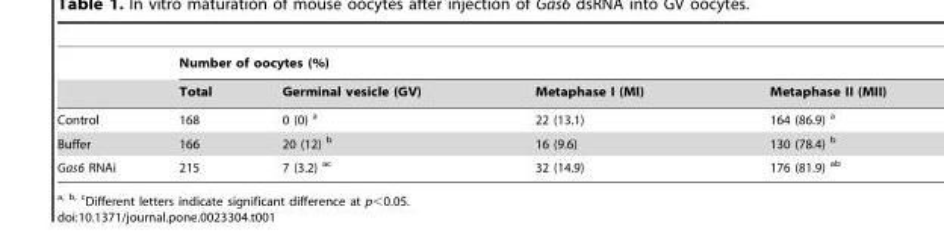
<table><thead><tr><td rowspan="2"></td><td colspan="4">Number of oocytes (%)</td></tr><tr><td>Total</td><td>Germinal vesicle (GV)</td><td>Metaphase I (MI)</td><td>Metaphase II (MII)</td></tr></thead><tbody><tr><td>Control</td><td>168</td><td>0 (0) <sup>a</sup></td><td>22 (13.1)</td><td>164 (86.9) <sup>a</sup></td></tr><tr><td>Buffer</td><td>166</td><td>20 (12) <sup>b</sup></td><td>16 (9.6)</td><td>130 (78.4) <sup>b</sup></td></tr><tr><td>Gas6 RNAi</td><td>215</td><td>7 (3.2) <sup>ac</sup></td><td>32 (14.9)</td><td>176 (81.9) <sup>ab</sup></td></tr></tbody></table>